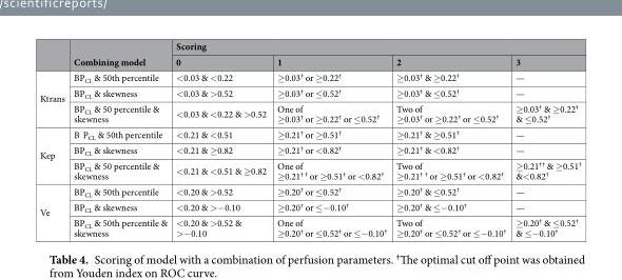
<table><thead><tr><td rowspan="2"></td><td rowspan="2">Combining model</td><td colspan="4">Scoring</td></tr><tr><td>0</td><td>1</td><td>2</td><td>3</td></tr></thead><tbody><tr><td rowspan="3">Ktrans</td><td>BP<sub>CL</sub> &amp; 50th percentile</td><td>&lt;0.03 &amp; &lt;0.22</td><td>≥0.03<sup>†</sup> or ≥0.22<sup>†</sup></td><td>≥0.03<sup>†</sup> &amp; ≥0.22<sup>†</sup></td><td>—</td></tr><tr><td>BP<sub>CL</sub> &amp; skewness</td><td>&lt;0.03 &amp; &gt;0.52</td><td>≥0.03<sup>†</sup> or ≤0.52<sup>†</sup></td><td>≥0.03<sup>†</sup> &amp; ≤0.52<sup>†</sup></td><td>—</td></tr><tr><td>BP<sub>CL</sub> &amp; 50 percentile &amp; skewness</td><td>&lt;0.03 &amp; &lt;0.22 &amp; &gt;0.52</td><td>One of ≥0.03<sup>†</sup> or ≥0.22<sup>†</sup> or ≤0.52<sup>†</sup></td><td>Two of ≥0.03<sup>†</sup> or ≥0.22<sup>†</sup> or ≤0.52<sup>†</sup></td><td>≥0.03<sup>†</sup> &amp; ≥0.22<sup>†</sup> &amp; ≤0.52<sup>†</sup></td></tr><tr><td rowspan="3">Kep</td><td>B P<sub>CL</sub> &amp; 50th percentile</td><td>&lt;0.21 &amp; &lt;0.51</td><td>≥0.21<sup>†</sup> or ≥0.51<sup>†</sup></td><td>≥0.21<sup>†</sup> &amp; ≥0.51<sup>†</sup></td><td>—</td></tr><tr><td>BP<sub>CL</sub> &amp; skewness</td><td>&lt;0.21 &amp; ≥0.82</td><td>≥0.21<sup>†</sup> or &lt;0.82<sup>†</sup></td><td>≥0.21<sup>†</sup> &amp; &lt;0.82<sup>†</sup></td><td>—</td></tr><tr><td>BP<sub>CL</sub> &amp; 50 percentile &amp; skewness</td><td>&lt;0.21 &amp; &lt;0.51 &amp; ≥0.82</td><td>One of ≥0.21<sup>† †</sup> or ≥0.51<sup>†</sup> or &lt;0.82<sup>†</sup></td><td>Two of ≥0.21<sup>† †</sup> or ≥0.51<sup>†</sup> or &lt;0.82<sup>†</sup></td><td>≥0.21<sup>††</sup> &amp; ≥0.51<sup>†</sup> &amp;&lt;0.82<sup>†</sup></td></tr><tr><td rowspan="3">Ve</td><td>BP<sub>CL</sub> &amp; 50th percentile</td><td>&lt;0.20 &amp; &gt;0.52</td><td>≥0.20<sup>†</sup> or ≤0.52<sup>†</sup></td><td>≥0.20<sup>†</sup> &amp; ≤0.52<sup>†</sup></td><td>—</td></tr><tr><td>BP<sub>CL</sub> &amp; skewness</td><td>&lt;0.20 &amp; &gt;−0.10</td><td>≥0.20<sup>†</sup> or ≤−0.10<sup>†</sup></td><td>≥0.20<sup>†</sup> &amp; ≤−0.10<sup>†</sup></td><td>—</td></tr><tr><td>BP<sub>CL</sub> &amp; 50th percentile &amp; skewness</td><td>&lt;0.20 &amp; &gt;0.52 &amp; &gt;−0.10</td><td>One of ≥0.20<sup>†</sup> or ≤0.52<sup>†</sup> or ≤−0.10<sup>†</sup></td><td>Two of ≥0.20<sup>†</sup> or ≤0.52<sup>†</sup> or ≤−0.10<sup>†</sup></td><td>≥0.20<sup>†</sup> &amp; ≤0.52<sup>†</sup> &amp; ≤−0.10<sup>†</sup></td></tr></tbody></table>